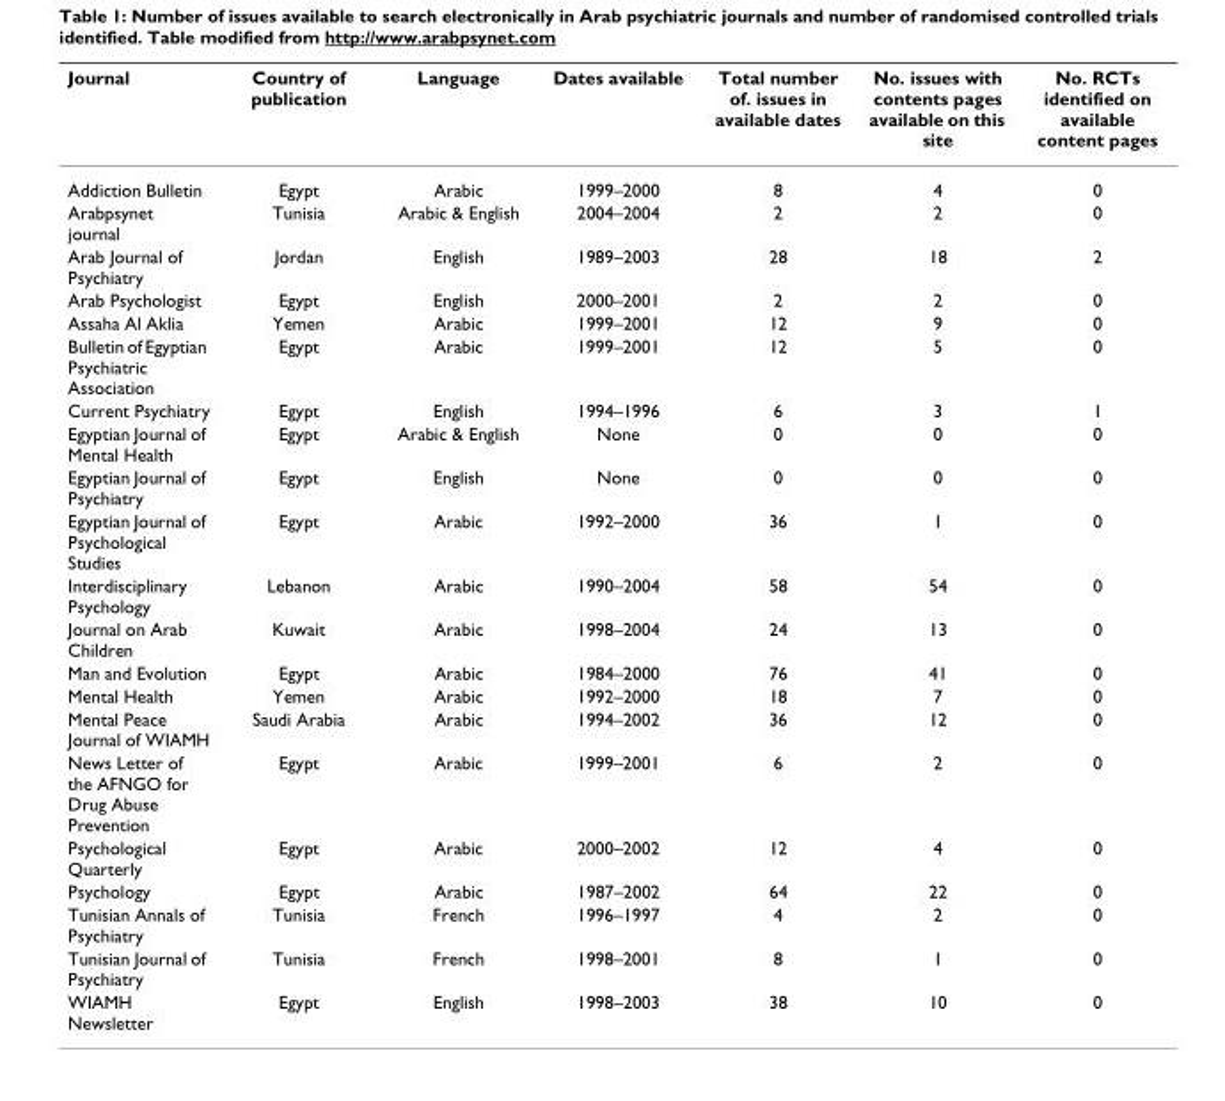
<table><thead><tr><td>Journal</td><td>Country of publication</td><td>Language</td><td>Dates available</td><td>Total number of. issues in available dates</td><td>No. issues with contents pages available on this site</td><td>No. RCTs identified on available content pages</td></tr></thead><tbody><tr><td>Addiction Bulletin</td><td>Egypt</td><td>Arabic</td><td>1999–2000</td><td>8</td><td>4</td><td>0</td></tr><tr><td>Arabpsynet journal</td><td>Tunisia</td><td>Arabic &amp; English</td><td>2004–2004</td><td>2</td><td>2</td><td>0</td></tr><tr><td>Arab Journal of Psychiatry</td><td>Jordan</td><td>English</td><td>1989–2003</td><td>28</td><td>18</td><td>2</td></tr><tr><td>Arab Psychologist</td><td>Egypt</td><td>English</td><td>2000–2001</td><td>2</td><td>2</td><td>0</td></tr><tr><td>Assaha Al Aklia</td><td>Yemen</td><td>Arabic</td><td>1999–2001</td><td>12</td><td>9</td><td>0</td></tr><tr><td>Bulletin of Egyptian Psychiatric Association</td><td>Egypt</td><td>Arabic</td><td>1999–2001</td><td>12</td><td>5</td><td>0</td></tr><tr><td>Current Psychiatry</td><td>Egypt</td><td>English</td><td>1994–1996</td><td>6</td><td>3</td><td>1</td></tr><tr><td>Egyptian Journal of Mental Health</td><td>Egypt</td><td>Arabic &amp; English</td><td>None</td><td>0</td><td>0</td><td>0</td></tr><tr><td>Egyptian Journal of Psychiatry</td><td>Egypt</td><td>English</td><td>None</td><td>0</td><td>0</td><td>0</td></tr><tr><td>Egyptian Journal of Psychological Studies</td><td>Egypt</td><td>Arabic</td><td>1992–2000</td><td>36</td><td>1</td><td>0</td></tr><tr><td>Interdisciplinary Psychology</td><td>Lebanon</td><td>Arabic</td><td>1990–2004</td><td>58</td><td>54</td><td>0</td></tr><tr><td>Journal on Arab Children</td><td>Kuwait</td><td>Arabic</td><td>1998–2004</td><td>24</td><td>13</td><td>0</td></tr><tr><td>Man and Evolution</td><td>Egypt</td><td>Arabic</td><td>1984–2000</td><td>76</td><td>41</td><td>0</td></tr><tr><td>Mental Health</td><td>Yemen</td><td>Arabic</td><td>1992–2000</td><td>18</td><td>7</td><td>0</td></tr><tr><td>Mental Peace Journal of WIAMH</td><td>Saudi Arabia</td><td>Arabic</td><td>1994–2002</td><td>36</td><td>12</td><td>0</td></tr><tr><td>News Letter of the AFNGO for Drug Abuse Prevention</td><td>Egypt</td><td>Arabic</td><td>1999–2001</td><td>6</td><td>2</td><td>0</td></tr><tr><td>Psychological Quarterly</td><td>Egypt</td><td>Arabic</td><td>2000–2002</td><td>12</td><td>4</td><td>0</td></tr><tr><td>Psychology</td><td>Egypt</td><td>Arabic</td><td>1987–2002</td><td>64</td><td>22</td><td>0</td></tr><tr><td>Tunisian Annals of Psychiatry</td><td>Tunisia</td><td>French</td><td>1996–1997</td><td>4</td><td>2</td><td>0</td></tr><tr><td>Tunisian Journal of Psychiatry</td><td>Tunisia</td><td>French</td><td>1998–2001</td><td>8</td><td>1</td><td>0</td></tr><tr><td>WIAMH Newsletter</td><td>Egypt</td><td>English</td><td>1998–2003</td><td>38</td><td>10</td><td>0</td></tr></tbody></table>